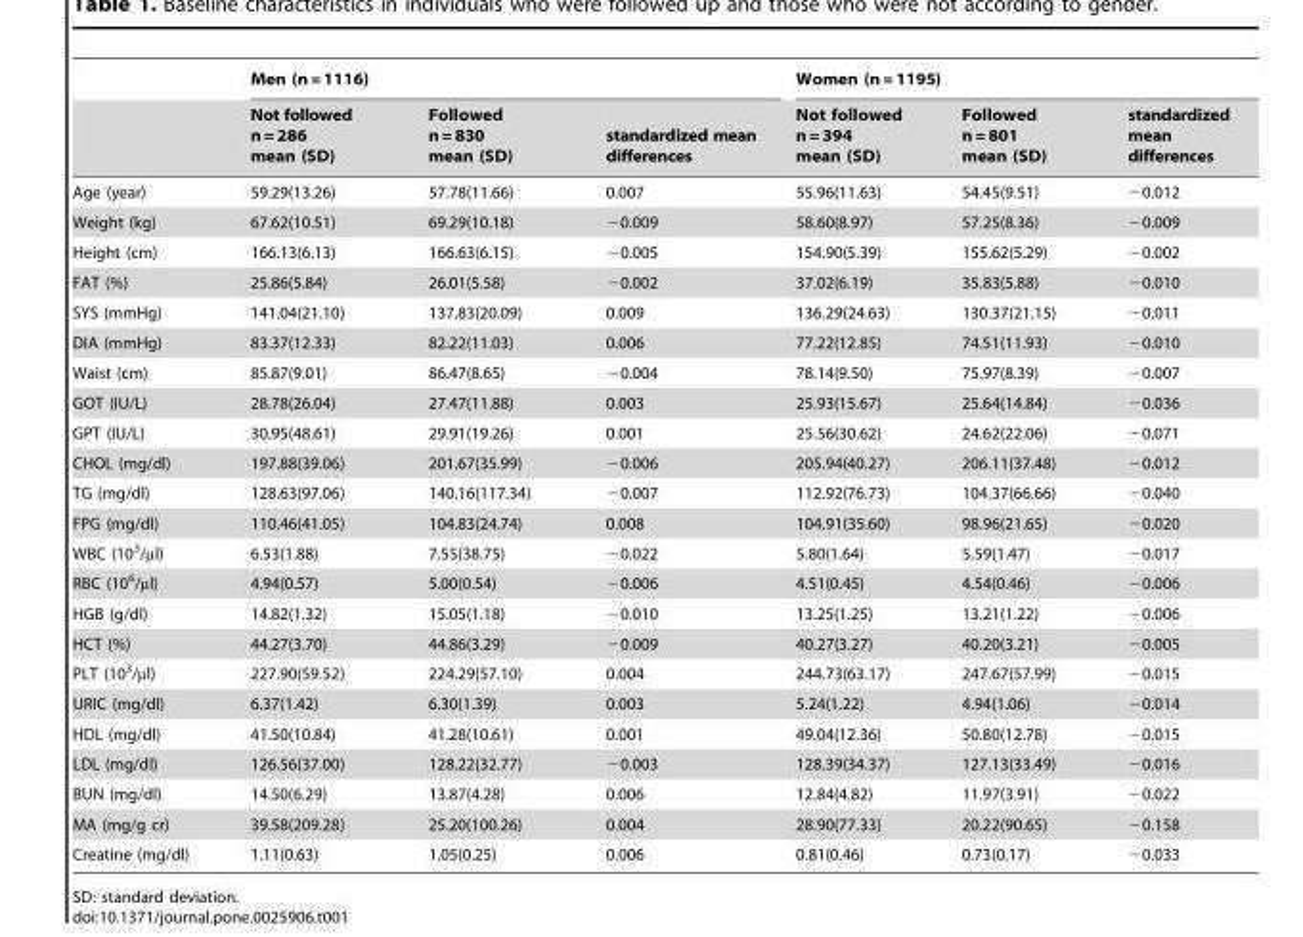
<table><thead><tr><td rowspan="2"></td><td colspan="3">Men (n = 1116)</td><td colspan="3">Women (n = 1195)</td></tr><tr><td>Not followed n = 286 mean (SD)</td><td>Followed n = 830 mean (SD)</td><td>standardized mean differences</td><td>Not followed n = 394 mean (SD)</td><td>Followed n = 801 mean (SD)</td><td>standardized mean differences</td></tr></thead><tbody><tr><td>Age (year)</td><td>59.29(13.26)</td><td>57.78(11.66)</td><td>0.007</td><td>55.96(11.63)</td><td>54.45(9.51)</td><td>−0.012</td></tr><tr><td>Weight (kg)</td><td>67.62(10.51)</td><td>69.29(10.18)</td><td>−0.009</td><td>58.60(8.97)</td><td>57.25(8.36)</td><td>−0.009</td></tr><tr><td>Height (cm)</td><td>166.13(6.13)</td><td>166.63(6.15)</td><td>−0.005</td><td>154.90(5.39)</td><td>155.62(5.29)</td><td>−0.002</td></tr><tr><td>FAT (%)</td><td>25.86(5.84)</td><td>26.01(5.58)</td><td>−0.002</td><td>37.02(6.19)</td><td>35.83(5.88)</td><td>−0.010</td></tr><tr><td>SYS (mmHg)</td><td>141.04(21.10)</td><td>137.83(20.09)</td><td>0.009</td><td>136.29(24.63)</td><td>130.37(21.15)</td><td>−0.011</td></tr><tr><td>DIA (mmHg)</td><td>83.37(12.33)</td><td>82.22(11.03)</td><td>0.006</td><td>77.22(12.85)</td><td>74.51(11.93)</td><td>−0.010</td></tr><tr><td>Waist (cm)</td><td>85.87(9.01)</td><td>86.47(8.65)</td><td>−0.004</td><td>78.14(9.50)</td><td>75.97(8.39)</td><td>−0.007</td></tr><tr><td>GOT (IU/L)</td><td>28.78(26.04)</td><td>27.47(11.88)</td><td>0.003</td><td>25.93(15.67)</td><td>25.64(14.84)</td><td>−0.036</td></tr><tr><td>GPT (IU/L)</td><td>30.95(48.61)</td><td>29.91(19.26)</td><td>0.001</td><td>25.56(30.62)</td><td>24.62(22.06)</td><td>−0.071</td></tr><tr><td>CHOL (mg/dl)</td><td>197.88(39.06)</td><td>201.67(35.99)</td><td>−0.006</td><td>205.94(40.27)</td><td>206.11(37.48)</td><td>−0.012</td></tr><tr><td>TG (mg/dl)</td><td>128.63(97.06)</td><td>140.16(117.34)</td><td>−0.007</td><td>112.92(76.73)</td><td>104.37(66.66)</td><td>−0.040</td></tr><tr><td>FPG (mg/dl)</td><td>110.46(41.05)</td><td>104.83(24.74)</td><td>0.008</td><td>104.91(35.60)</td><td>98.96(21.65)</td><td>−0.020</td></tr><tr><td>WBC (10<sup>3</sup>/µl)</td><td>6.53(1.88)</td><td>7.55(38.75)</td><td>−0.022</td><td>5.80(1.64)</td><td>5.59(1.47)</td><td>−0.017</td></tr><tr><td>RBC (10<sup>6</sup>/µl)</td><td>4.94(0.57)</td><td>5.00(0.54)</td><td>−0.006</td><td>4.51(0.45)</td><td>4.54(0.46)</td><td>−0.006</td></tr><tr><td>HGB (g/dl)</td><td>14.82(1.32)</td><td>15.05(1.18)</td><td>−0.010</td><td>13.25(1.25)</td><td>13.21(1.22)</td><td>−0.006</td></tr><tr><td>HCT (%)</td><td>44.27(3.70)</td><td>44.86(3.29)</td><td>−0.009</td><td>40.27(3.27)</td><td>40.20(3.21)</td><td>−0.005</td></tr><tr><td>PLT (10<sup>3</sup>/µl)</td><td>227.90(59.52)</td><td>224.29(57.10)</td><td>0.004</td><td>244.73(63.17)</td><td>247.67(57.99)</td><td>−0.015</td></tr><tr><td>URIC (mg/dl)</td><td>6.37(1.42)</td><td>6.30(1.39)</td><td>0.003</td><td>5.24(1.22)</td><td>4.94(1.06)</td><td>−0.014</td></tr><tr><td>HDL (mg/dl)</td><td>41.50(10.84)</td><td>41.28(10.61)</td><td>0.001</td><td>49.04(12.36)</td><td>50.80(12.78)</td><td>−0.015</td></tr><tr><td>LDL (mg/dl)</td><td>126.56(37.00)</td><td>128.22(32.77)</td><td>−0.003</td><td>128.39(34.37)</td><td>127.13(33.49)</td><td>−0.016</td></tr><tr><td>BUN (mg/dl)</td><td>14.50(6.29)</td><td>13.87(4.28)</td><td>0.006</td><td>12.84(4.82)</td><td>11.97(3.91)</td><td>−0.022</td></tr><tr><td>MA (mg/g cr)</td><td>39.58(209.28)</td><td>25.20(100.26)</td><td>0.004</td><td>28.90(77.33)</td><td>20.22(90.65)</td><td>−0.158</td></tr><tr><td>Creatine (mg/dl)</td><td>1.11(0.63)</td><td>1.05(0.25)</td><td>0.006</td><td>0.81(0.46)</td><td>0.73(0.17)</td><td>−0.033</td></tr></tbody></table>